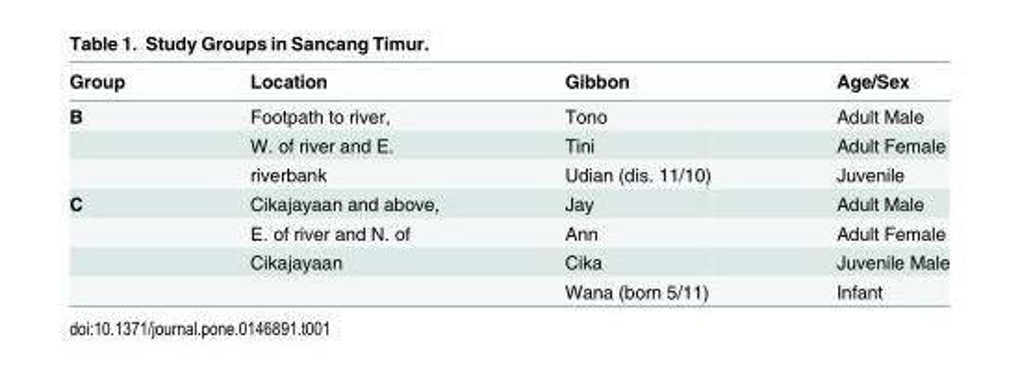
<table><thead><tr><td>Group</td><td>Location</td><td>Gibbon</td><td>Age/Sex</td></tr></thead><tbody><tr><td rowspan="3">B</td><td>Footpath to river,</td><td>Tono</td><td>Adult Male</td></tr><tr><td>W. of river and E.</td><td>Tini</td><td>Adult Female</td></tr><tr><td>riverbank</td><td>Udian (dis. 11/10)</td><td>Juvenile</td></tr><tr><td rowspan="4">C</td><td>Cikajayaan and above,</td><td>Jay</td><td>Adult Male</td></tr><tr><td>E. of river and N. of</td><td>Ann</td><td>Adult Female</td></tr><tr><td>Cikajayaan</td><td>Cika</td><td>Juvenile Male</td></tr><tr><td></td><td>Wana (born 5/11)</td><td>Infant</td></tr></tbody></table>